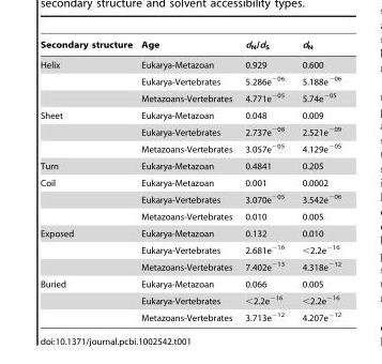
<table><thead><tr><td>Secondary structure</td><td>Age</td><td>d<sub>N</sub>/d<sub>S</sub></td><td>d<sub>N</sub></td></tr></thead><tbody><tr><td rowspan="3">Helix</td><td>Eukarya-Metazoan</td><td>0.929</td><td>0.600</td></tr><tr><td>Eukarya-Vertebrates</td><td>5.286e<sup>−06</sup></td><td>5.188e<sup>−06</sup></td></tr><tr><td>Metazoans-Vertebrates</td><td>4.771e<sup>−05</sup></td><td>5.74e<sup>−05</sup></td></tr><tr><td rowspan="3">Sheet</td><td>Eukarya-Metazoan</td><td>0.048</td><td>0.009</td></tr><tr><td>Eukarya-Vertebrates</td><td>2.737e<sup>−08</sup></td><td>2.521e<sup>−09</sup></td></tr><tr><td>Metazoans-Vertebrates</td><td>3.057e<sup>−05</sup></td><td>4.129e<sup>−05</sup></td></tr><tr><td>Turn</td><td>Eukarya-Metazoan</td><td>0.4841</td><td>0.205</td></tr><tr><td rowspan="3">Coil</td><td>Eukarya-Metazoan</td><td>0.001</td><td>0.0002</td></tr><tr><td>Eukarya-Vertebrates</td><td>3.070e<sup>−05</sup></td><td>3.542e<sup>−06</sup></td></tr><tr><td>Metazoans-Vertebrates</td><td>0.010</td><td>0.005</td></tr><tr><td rowspan="3">Exposed</td><td>Eukarya-Metazoan</td><td>0.132</td><td>0.010</td></tr><tr><td>Eukarya-Vertebrates</td><td>2.681e<sup>−16</sup></td><td>&lt;2.2e<sup>−16</sup></td></tr><tr><td>Metazoans-Vertebrates</td><td>7.402e<sup>−13</sup></td><td>4.318e<sup>−12</sup></td></tr><tr><td rowspan="3">Buried</td><td>Eukarya-Metazoan</td><td>0.066</td><td>0.005</td></tr><tr><td>Eukarya-Vertebrates</td><td>&lt;2.2e<sup>−16</sup></td><td>&lt;2.2e<sup>−16</sup></td></tr><tr><td>Metazoans-Vertebrates</td><td>3.713e<sup>−12</sup></td><td>4.207e<sup>−12</sup></td></tr></tbody></table>